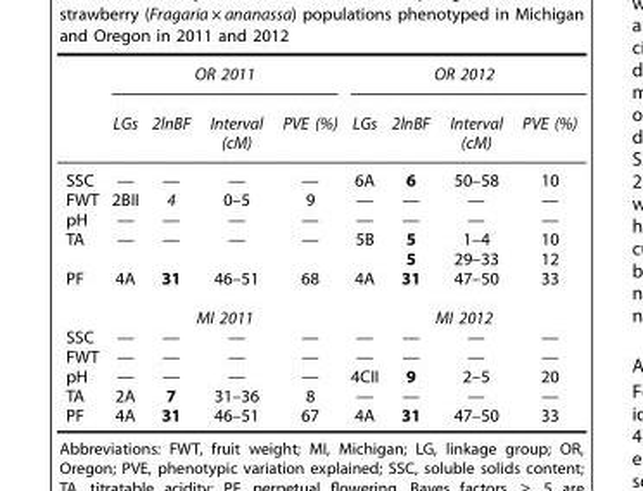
<table><thead><tr><td rowspan="2"></td><td colspan="4">OR 2011</td><td colspan="4">OR 2012</td></tr><tr><td>LGs</td><td>2lnBF</td><td>Interval (cM)</td><td>PVE (%)</td><td>LGs</td><td>2lnBF</td><td>Interval (cM)</td><td>PVE (%)</td></tr></thead><tbody><tr><td>SSC</td><td>—</td><td>—</td><td>—</td><td>—</td><td>6A</td><td>6</td><td>50–58</td><td>10</td></tr><tr><td>FWT</td><td>2BII</td><td>4</td><td>0–5</td><td>9</td><td>—</td><td>—</td><td>—</td><td>—</td></tr><tr><td>pH</td><td>—</td><td>—</td><td>—</td><td>—</td><td>—</td><td>—</td><td>—</td><td>—</td></tr><tr><td rowspan="2">TA</td><td>—</td><td>—</td><td>—</td><td>—</td><td>5B</td><td>5</td><td>1–4</td><td>10</td></tr><tr><td></td><td></td><td></td><td></td><td></td><td>5</td><td>29–33</td><td>12</td></tr><tr><td rowspan="2">PF</td><td>4A</td><td>31</td><td>46–51</td><td>68</td><td>4A</td><td>31</td><td>47–50</td><td>33</td></tr><tr><td colspan="4">MI 2011</td><td colspan="4">MI 2012</td></tr><tr><td>SSC</td><td>—</td><td>—</td><td>—</td><td>—</td><td>—</td><td>—</td><td>—</td><td>—</td></tr><tr><td>FWT</td><td>—</td><td>—</td><td>—</td><td>—</td><td>—</td><td>—</td><td>—</td><td>—</td></tr><tr><td>pH</td><td>—</td><td>—</td><td>—</td><td>—</td><td>4CII</td><td>9</td><td>2–5</td><td>20</td></tr><tr><td>TA</td><td>2A</td><td>7</td><td>31–36</td><td>8</td><td>—</td><td>—</td><td>—</td><td>—</td></tr><tr><td>PF</td><td>4A</td><td>31</td><td>46–51</td><td>67</td><td>4A</td><td>31</td><td>47–50</td><td>33</td></tr></tbody></table>